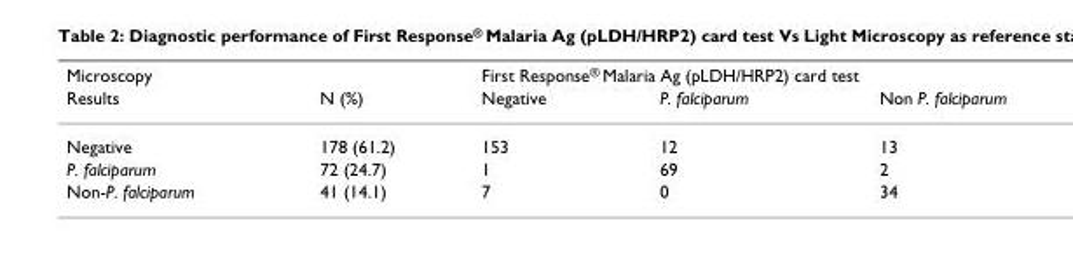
<table><thead><tr><td colspan="2">Microscopy</td><td colspan="3">First Response<sup>®</sup> Malaria Ag (pLDH/HRP2) card test</td></tr><tr><td>Results</td><td>N (%)</td><td>Negative</td><td>P. falciparum</td><td>Non P. falciparum</td></tr></thead><tbody><tr><td>Negative</td><td>178 (61.2)</td><td>153</td><td>12</td><td>13</td></tr><tr><td>P. falciparum</td><td>72 (24.7)</td><td>1</td><td>69</td><td>2</td></tr><tr><td>Non-P. falciparum</td><td>41 (14.1)</td><td>7</td><td>0</td><td>34</td></tr></tbody></table>